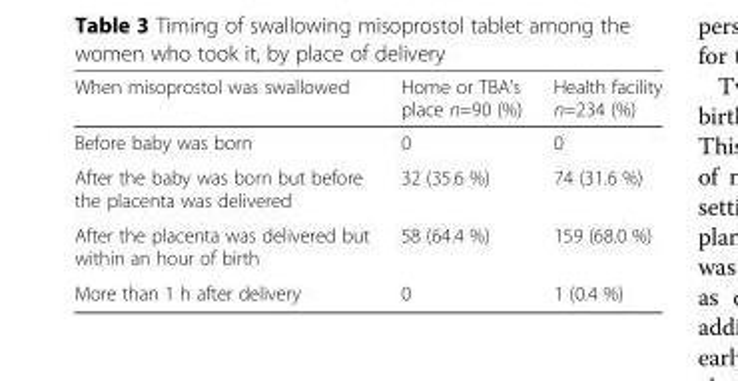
<table><thead><tr><td>When misoprostol was swallowed</td><td>Home or TBA’s place n=90 (%)</td><td>Health facility n=234 (%)</td></tr></thead><tbody><tr><td>Before baby was born</td><td>0</td><td>0</td></tr><tr><td>After the baby was born but before the placenta was delivered</td><td>32 (35.6 %)</td><td>74 (31.6 %)</td></tr><tr><td>After the placenta was delivered but within an hour of birth</td><td>58 (64.4 %)</td><td>159 (68.0 %)</td></tr><tr><td>More than 1 h after delivery</td><td>0</td><td>1 (0.4 %)</td></tr></tbody></table>